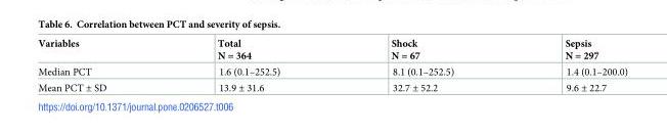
<table><thead><tr><td>Variables</td><td>Total N = 364</td><td>Shock N = 67</td><td>Sepsis N = 297</td></tr></thead><tbody><tr><td>Median PCT</td><td>1.6 (0.1–252.5)</td><td>8.1 (0.1–252.5)</td><td>1.4 (0.1–200.0)</td></tr><tr><td>Mean PCT ± SD</td><td>13.9 ± 31.6</td><td>32.7 ± 52.2</td><td>9.6 ± 22.7</td></tr></tbody></table>